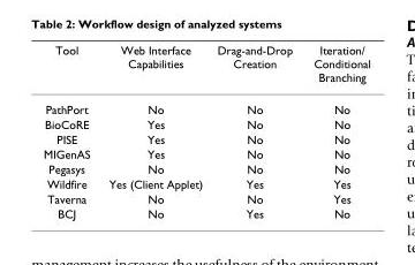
<table><thead><tr><td>Tool</td><td>Web Interface Capabilities</td><td>Drag-and-Drop Creation</td><td>Iteration/ Conditional Branching</td></tr></thead><tbody><tr><td>PathPort</td><td>No</td><td>No</td><td>No</td></tr><tr><td>BioCoRE</td><td>Yes</td><td>No</td><td>No</td></tr><tr><td>PISE</td><td>Yes</td><td>No</td><td>No</td></tr><tr><td>MIGenAS</td><td>Yes</td><td>No</td><td>No</td></tr><tr><td>Pegasys</td><td>No</td><td>No</td><td>No</td></tr><tr><td>Wildfire</td><td>Yes (Client Applet)</td><td>Yes</td><td>Yes</td></tr><tr><td>Taverna</td><td>No</td><td>No</td><td>Yes</td></tr><tr><td>BCJ</td><td>No</td><td>Yes</td><td>No</td></tr></tbody></table>